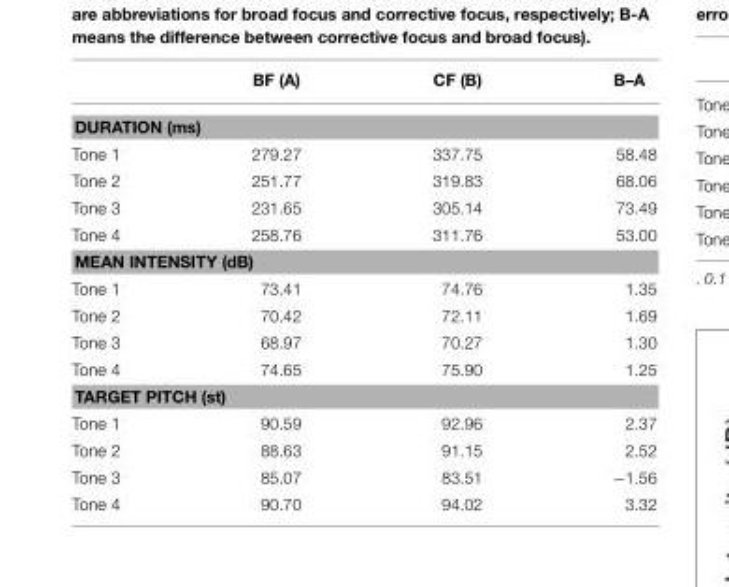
<table><thead><tr><td></td><td>BF (A)</td><td>CF (B)</td><td>B–A</td></tr></thead><tbody><tr><td colspan="4">DURATION (ms)</td></tr><tr><td>Tone 1</td><td>279.27</td><td>337.75</td><td>58.48</td></tr><tr><td>Tone 2</td><td>251.77</td><td>319.83</td><td>68.06</td></tr><tr><td>Tone 3</td><td>231.65</td><td>305.14</td><td>73.49</td></tr><tr><td>Tone 4</td><td>258.76</td><td>311.76</td><td>53.00</td></tr><tr><td colspan="4">MEAN INTENSITY (dB)</td></tr><tr><td>Tone 1</td><td>73.41</td><td>74.76</td><td>1.35</td></tr><tr><td>Tone 2</td><td>70.42</td><td>72.11</td><td>1.69</td></tr><tr><td>Tone 3</td><td>68.97</td><td>70.27</td><td>1.30</td></tr><tr><td>Tone 4</td><td>74.65</td><td>75.90</td><td>1.25</td></tr><tr><td colspan="4">TARGET PITCH (st)</td></tr><tr><td>Tone 1</td><td>90.59</td><td>92.96</td><td>2.37</td></tr><tr><td>Tone 2</td><td>88.63</td><td>91.15</td><td>2.52</td></tr><tr><td>Tone 3</td><td>85.07</td><td>83.51</td><td>−1.56</td></tr><tr><td>Tone 4</td><td>90.70</td><td>94.02</td><td>3.32</td></tr></tbody></table>